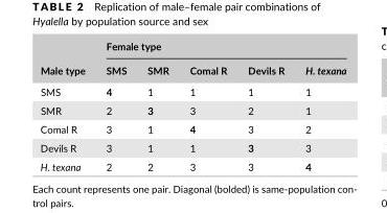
<table><thead><tr><td rowspan="2">Male type</td><td colspan="5">Female type</td></tr><tr><td>SMS</td><td>SMR</td><td>Comal R</td><td>Devils R</td><td>H. texana</td></tr></thead><tbody><tr><td>SMS</td><td>4</td><td>1</td><td>1</td><td>1</td><td>1</td></tr><tr><td>SMR</td><td>2</td><td>3</td><td>3</td><td>2</td><td>1</td></tr><tr><td>Comal R</td><td>3</td><td>1</td><td>4</td><td>3</td><td>2</td></tr><tr><td>Devils R</td><td>3</td><td>1</td><td>1</td><td>3</td><td>3</td></tr><tr><td>H. texana</td><td>2</td><td>2</td><td>3</td><td>3</td><td>4</td></tr></tbody></table>